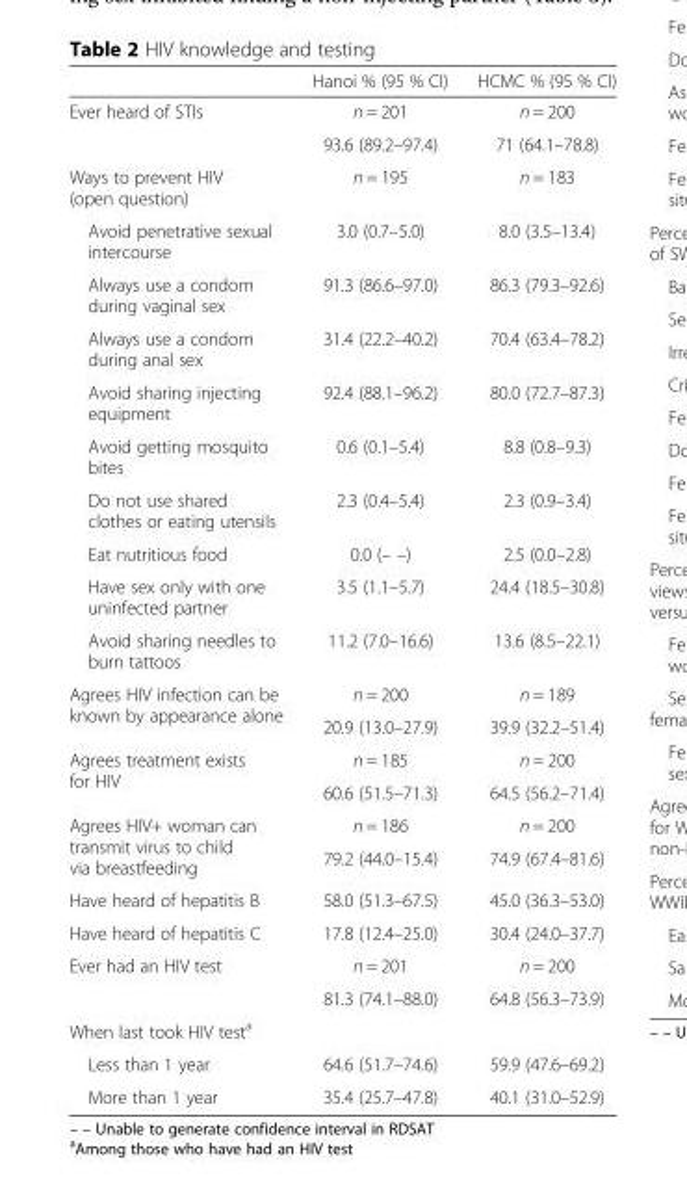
<table><thead><tr><td></td><td>Hanoi % (95 % CI)</td><td>HCMC % (95 % CI)</td></tr></thead><tbody><tr><td rowspan="2">Ever heard of STIs</td><td>n = 201</td><td>n = 200</td></tr><tr><td>93.6 (89.2–97.4)</td><td>71 (64.1–78.8)</td></tr><tr><td>Ways to prevent HIV (open question)</td><td>n = 195</td><td>n = 183</td></tr><tr><td>Avoid penetrative sexual intercourse</td><td>3.0 (0.7–5.0)</td><td>8.0 (3.5–13.4)</td></tr><tr><td>Always use a condom during vaginal sex</td><td>91.3 (86.6–97.0)</td><td>86.3 (79.3–92.6)</td></tr><tr><td>Always use a condom during anal sex</td><td>31.4 (22.2–40.2)</td><td>70.4 (63.4–78.2)</td></tr><tr><td>Avoid sharing injecting equipment</td><td>92.4 (88.1–96.2)</td><td>80.0 (72.7–87.3)</td></tr><tr><td>Avoid getting mosquito bites</td><td>0.6 (0.1–5.4)</td><td>8.8 (0.8–9.3)</td></tr><tr><td>Do not use shared clothes or eating utensils</td><td>2.3 (0.4–5.4)</td><td>2.3 (0.9–3.4)</td></tr><tr><td>Eat nutritious food</td><td>0.0 (– –)</td><td>2.5 (0.0–2.8)</td></tr><tr><td>Have sex only with one uninfected partner</td><td>3.5 (1.1–5.7)</td><td>24.4 (18.5–30.8)</td></tr><tr><td>Avoid sharing needles to burn tattoos</td><td>11.2 (7.0–16.6)</td><td>13.6 (8.5–22.1)</td></tr><tr><td rowspan="2">Agrees HIV infection can be known by appearance alone</td><td>n = 200</td><td>n = 189</td></tr><tr><td>20.9 (13.0–27.9)</td><td>39.9 (32.2–51.4)</td></tr><tr><td rowspan="2">Agrees treatment exists for HIV</td><td>n = 185</td><td>n = 200</td></tr><tr><td>60.6 (51.5–71.3)</td><td>64.5 (56.2–71.4)</td></tr><tr><td rowspan="2">Agrees HIV+ woman can transmit virus to child via breastfeeding</td><td>n = 186</td><td>n = 200</td></tr><tr><td>79.2 (44.0–15.4)</td><td>74.9 (67.4–81.6)</td></tr><tr><td>Have heard of hepatitis B</td><td>58.0 (51.3–67.5)</td><td>45.0 (36.3–53.0)</td></tr><tr><td>Have heard of hepatitis C</td><td>17.8 (12.4–25.0)</td><td>30.4 (24.0–37.7)</td></tr><tr><td rowspan="2">Ever had an HIV test</td><td>n = 201</td><td>n = 200</td></tr><tr><td>81.3 (74.1–88.0)</td><td>64.8 (56.3–73.9)</td></tr><tr><td colspan="3">When last took HIV test<sup>a</sup></td></tr><tr><td>Less than 1 year</td><td>64.6 (51.7–74.6)</td><td>59.9 (47.6–69.2)</td></tr><tr><td>More than 1 year</td><td>35.4 (25.7–47.8)</td><td>40.1 (31.0–52.9)</td></tr></tbody></table>